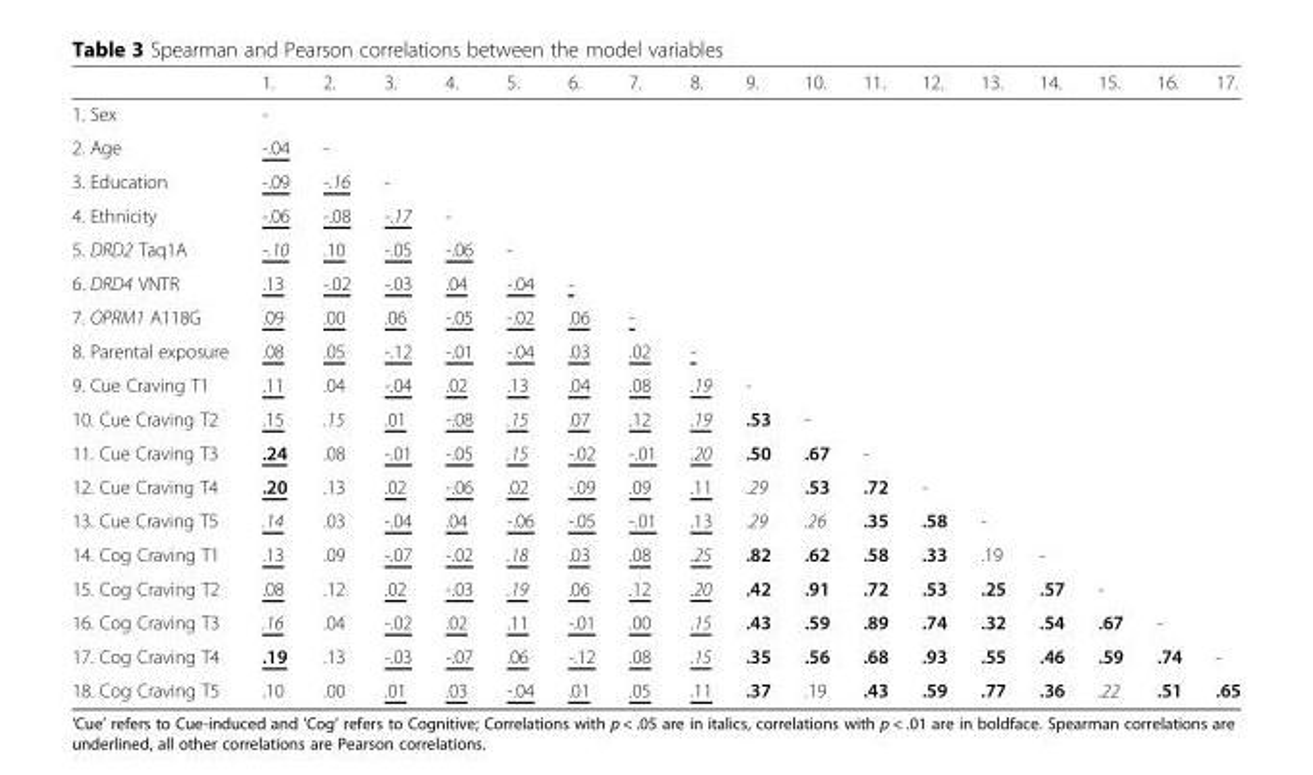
<table><thead><tr><td></td><td>1.</td><td>2.</td><td>3.</td><td>4.</td><td>5.</td><td>6.</td><td>7.</td><td>8.</td><td>9.</td><td>10.</td><td>11.</td><td>12.</td><td>13.</td><td>14.</td><td>15.</td><td>16.</td><td>17.</td></tr></thead><tbody><tr><td>1. Sex</td><td>-</td><td></td><td></td><td></td><td></td><td></td><td></td><td></td><td></td><td></td><td></td><td></td><td></td><td></td><td></td><td></td><td></td></tr><tr><td>2. Age</td><td>-.04</td><td>-</td><td></td><td></td><td></td><td></td><td></td><td></td><td></td><td></td><td></td><td></td><td></td><td></td><td></td><td></td><td></td></tr><tr><td>3. Education</td><td>-.09</td><td>-.16</td><td>-</td><td></td><td></td><td></td><td></td><td></td><td></td><td></td><td></td><td></td><td></td><td></td><td></td><td></td><td></td></tr><tr><td>4. Ethnicity</td><td>-.06</td><td>-.08</td><td>-.17</td><td>-</td><td></td><td></td><td></td><td></td><td></td><td></td><td></td><td></td><td></td><td></td><td></td><td></td><td></td></tr><tr><td>5. DRD2 Taq1A</td><td>-.10</td><td>.10</td><td>-.05</td><td>-.06</td><td>-</td><td></td><td></td><td></td><td></td><td></td><td></td><td></td><td></td><td></td><td></td><td></td><td></td></tr><tr><td>6. DRD4 VNTR</td><td>.13</td><td>-.02</td><td>-.03</td><td>.04</td><td>-.04</td><td>-</td><td></td><td></td><td></td><td></td><td></td><td></td><td></td><td></td><td></td><td></td><td></td></tr><tr><td>7. OPRM1 A118G</td><td>.09</td><td>.00</td><td>.06</td><td>-.05</td><td>-.02</td><td>.06</td><td>-</td><td></td><td></td><td></td><td></td><td></td><td></td><td></td><td></td><td></td><td></td></tr><tr><td>8. Parental exposure</td><td>.08</td><td>.05</td><td>-.12</td><td>-.01</td><td>-.04</td><td>.03</td><td>.02</td><td>-</td><td></td><td></td><td></td><td></td><td></td><td></td><td></td><td></td><td></td></tr><tr><td>9. Cue Craving T1</td><td>.11</td><td>.04</td><td>-.04</td><td>.02</td><td>.13</td><td>.04</td><td>.08</td><td>.19</td><td>-</td><td></td><td></td><td></td><td></td><td></td><td></td><td></td><td></td></tr><tr><td>10. Cue Craving T2</td><td>.15</td><td>.15</td><td>.01</td><td>-.08</td><td>.15</td><td>.07</td><td>.12</td><td>.19</td><td>.53</td><td>-</td><td></td><td></td><td></td><td></td><td></td><td></td><td></td></tr><tr><td>11. Cue Craving T3</td><td>.24</td><td>.08</td><td>-.01</td><td>-.05</td><td>.15</td><td>-.02</td><td>-.01</td><td>.20</td><td>.50</td><td>.67</td><td>-</td><td></td><td></td><td></td><td></td><td></td><td></td></tr><tr><td>12. Cue Craving T4</td><td>.20</td><td>.13</td><td>.02</td><td>-.06</td><td>.02</td><td>-.09</td><td>.09</td><td>.11</td><td>.29</td><td>.53</td><td>.72</td><td>-</td><td></td><td></td><td></td><td></td><td></td></tr><tr><td>13. Cue Craving T5</td><td>.14</td><td>.03</td><td>-.04</td><td>.04</td><td>-.06</td><td>-.05</td><td>-.01</td><td>.13</td><td>.29</td><td>.26</td><td>.35</td><td>.58</td><td>-</td><td></td><td></td><td></td><td></td></tr><tr><td>14. Cog Craving T1</td><td>.13</td><td>.09</td><td>-.07</td><td>-.02</td><td>.18</td><td>.03</td><td>.08</td><td>.25</td><td>.82</td><td>.62</td><td>.58</td><td>.33</td><td>.19</td><td>-</td><td></td><td></td><td></td></tr><tr><td>15. Cog Craving T2</td><td>.08</td><td>.12</td><td>.02</td><td>-.03</td><td>.19</td><td>.06</td><td>.12</td><td>.20</td><td>.42</td><td>.91</td><td>.72</td><td>.53</td><td>.25</td><td>.57</td><td>-</td><td></td><td></td></tr><tr><td>16. Cog Craving T3</td><td>.16</td><td>.04</td><td>-.02</td><td>.02</td><td>.11</td><td>-.01</td><td>.00</td><td>.15</td><td>.43</td><td>.59</td><td>.89</td><td>.74</td><td>.32</td><td>.54</td><td>.67</td><td>-</td><td></td></tr><tr><td>17. Cog Craving T4</td><td>.19</td><td>.13</td><td>-.03</td><td>-.07</td><td>.06</td><td>-.12</td><td>.08</td><td>.15</td><td>.35</td><td>.56</td><td>.68</td><td>.93</td><td>.55</td><td>.46</td><td>.59</td><td>.74</td><td>-</td></tr><tr><td>18. Cog Craving T5</td><td>.10</td><td>.00</td><td>.01</td><td>.03</td><td>-.04</td><td>.01</td><td>.05</td><td>.11</td><td>.37</td><td>.19</td><td>.43</td><td>.59</td><td>.77</td><td>.36</td><td>.22</td><td>.51</td><td>.65</td></tr></tbody></table>